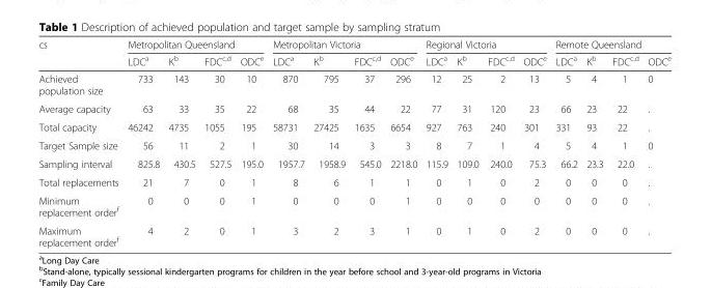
<table><thead><tr><td rowspan="2">cs</td><td colspan="4">Metropolitan Queensland</td><td colspan="4">Metropolitan Victoria</td><td colspan="4">Regional Victoria</td><td colspan="4">Remote Queensland</td></tr><tr><td>LDC<sup>a</sup></td><td>K<sup>b</sup></td><td>FDC<sup>c,d</sup></td><td>ODC<sup>e</sup></td><td>LDC<sup>a</sup></td><td>K<sup>b</sup></td><td>FDC<sup>c,d</sup></td><td>ODC<sup>e</sup></td><td>LDC<sup>a</sup></td><td>K<sup>b</sup></td><td>FDC<sup>c,d</sup></td><td>ODC<sup>e</sup></td><td>LDC<sup>a</sup></td><td>K<sup>b</sup></td><td>FDC<sup>c,d</sup></td><td>ODC<sup>e</sup></td></tr></thead><tbody><tr><td>Achieved population size</td><td>733</td><td>143</td><td>30</td><td>10</td><td>870</td><td>795</td><td>37</td><td>296</td><td>12</td><td>25</td><td>2</td><td>13</td><td>5</td><td>4</td><td>1</td><td>0</td></tr><tr><td>Average capacity</td><td>63</td><td>33</td><td>35</td><td>22</td><td>68</td><td>35</td><td>44</td><td>22</td><td>77</td><td>31</td><td>120</td><td>23</td><td>66</td><td>23</td><td>22</td><td>.</td></tr><tr><td>Total capacity</td><td>46242</td><td>4735</td><td>1055</td><td>195</td><td>58731</td><td>27425</td><td>1635</td><td>6654</td><td>927</td><td>763</td><td>240</td><td>301</td><td>331</td><td>93</td><td>22</td><td>.</td></tr><tr><td>Target Sample size</td><td>56</td><td>11</td><td>2</td><td>1</td><td>30</td><td>14</td><td>3</td><td>3</td><td>8</td><td>7</td><td>1</td><td>4</td><td>5</td><td>4</td><td>1</td><td>0</td></tr><tr><td>Sampling interval</td><td>825.8</td><td>430.5</td><td>527.5</td><td>195.0</td><td>1957.7</td><td>1958.9</td><td>545.0</td><td>2218.0</td><td>115.9</td><td>109.0</td><td>240.0</td><td>75.3</td><td>66.2</td><td>23.3</td><td>22.0</td><td>.</td></tr><tr><td>Total replacements</td><td>21</td><td>7</td><td>0</td><td>1</td><td>8</td><td>6</td><td>1</td><td>1</td><td>0</td><td>1</td><td>0</td><td>2</td><td>0</td><td>0</td><td>0</td><td>.</td></tr><tr><td>Minimum replacement order<sup>f</sup></td><td>0</td><td>0</td><td>0</td><td>1</td><td>0</td><td>0</td><td>0</td><td>1</td><td>0</td><td>0</td><td>0</td><td>0</td><td>0</td><td>0</td><td>0</td><td>.</td></tr><tr><td>Maximum replacement order<sup>f</sup></td><td>4</td><td>2</td><td>0</td><td>1</td><td>3</td><td>2</td><td>3</td><td>1</td><td>0</td><td>1</td><td>0</td><td>2</td><td>0</td><td>0</td><td>0</td><td>.</td></tr></tbody></table>